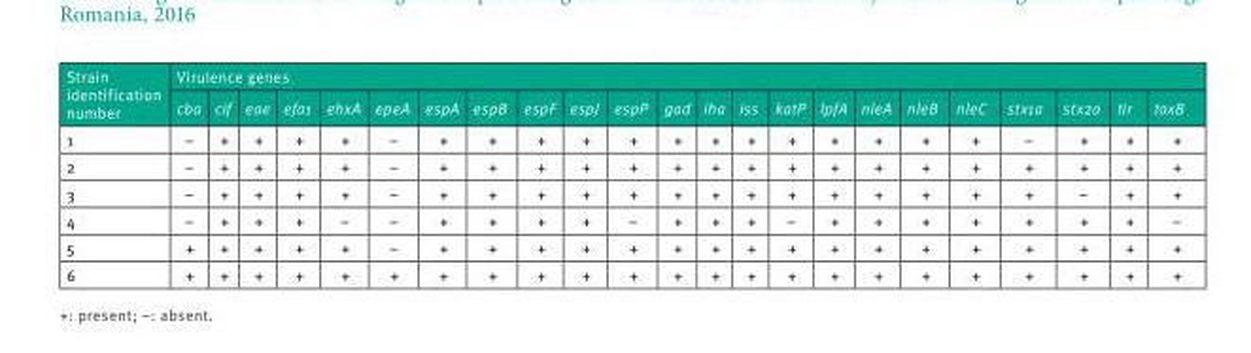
<table><thead><tr><td rowspan="2">Strain identification number</td><td colspan="23">Virulence genes</td></tr><tr><td>cba</td><td>cif</td><td>eae</td><td>efa1</td><td>ehxA</td><td>epeA</td><td>espA</td><td>espB</td><td>espF</td><td>espJ</td><td>espP</td><td>gad</td><td>iha</td><td>iss</td><td>katP</td><td>lpfA</td><td>nleA</td><td>nleB</td><td>nleC</td><td>stx1a</td><td>stx2a</td><td>tir</td><td>toxB</td></tr></thead><tbody><tr><td>1</td><td>–</td><td>+</td><td>+</td><td>+</td><td>+</td><td>–</td><td>+</td><td>+</td><td>+</td><td>+</td><td>+</td><td>+</td><td>+</td><td>+</td><td>+</td><td>+</td><td>+</td><td>+</td><td>+</td><td>–</td><td>+</td><td>+</td><td>+</td></tr><tr><td>2</td><td>–</td><td>+</td><td>+</td><td>+</td><td>+</td><td>–</td><td>+</td><td>+</td><td>+</td><td>+</td><td>+</td><td>+</td><td>+</td><td>+</td><td>+</td><td>+</td><td>+</td><td>+</td><td>+</td><td>+</td><td>+</td><td>+</td><td>+</td></tr><tr><td>3</td><td>–</td><td>+</td><td>+</td><td>+</td><td>+</td><td>–</td><td>+</td><td>+</td><td>+</td><td>+</td><td>+</td><td>+</td><td>+</td><td>+</td><td>+</td><td>+</td><td>+</td><td>+</td><td>+</td><td>+</td><td>–</td><td>+</td><td>+</td></tr><tr><td>4</td><td>–</td><td>+</td><td>+</td><td>+</td><td>–</td><td>–</td><td>+</td><td>+</td><td>+</td><td>+</td><td>–</td><td>+</td><td>+</td><td>+</td><td>–</td><td>+</td><td>+</td><td>+</td><td>+</td><td>+</td><td>+</td><td>+</td><td>–</td></tr><tr><td>5</td><td>+</td><td>+</td><td>+</td><td>+</td><td>+</td><td>–</td><td>+</td><td>+</td><td>+</td><td>+</td><td>+</td><td>+</td><td>+</td><td>+</td><td>+</td><td>+</td><td>+</td><td>+</td><td>+</td><td>+</td><td>+</td><td>+</td><td>+</td></tr><tr><td>6</td><td>+</td><td>+</td><td>+</td><td>+</td><td>+</td><td>+</td><td>+</td><td>+</td><td>+</td><td>+</td><td>+</td><td>+</td><td>+</td><td>+</td><td>+</td><td>+</td><td>+</td><td>+</td><td>+</td><td>+</td><td>+</td><td>+</td><td>+</td></tr></tbody></table>